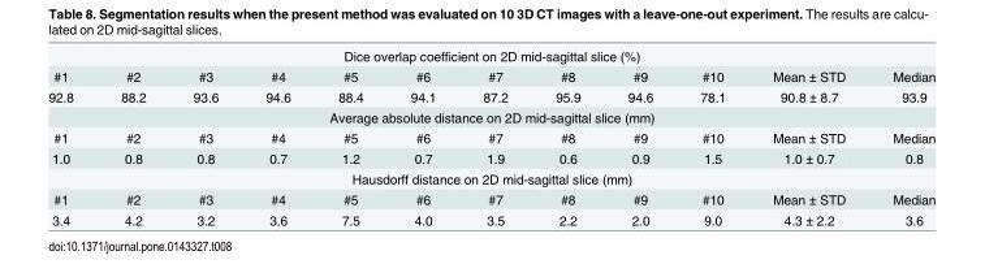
<table><tbody><tr><td colspan="12">Dice overlap coefficient on 2D mid-sagittal slice (%)</td></tr><tr><td>#1</td><td>#2</td><td>#3</td><td>#4</td><td>#5</td><td>#6</td><td>#7</td><td>#8</td><td>#9</td><td>#10</td><td>Mean ± STD</td><td>Median</td></tr><tr><td>92.8</td><td>88.2</td><td>93.6</td><td>94.6</td><td>88.4</td><td>94.1</td><td>87.2</td><td>95.9</td><td>94.6</td><td>78.1</td><td>90.8 ± 8.7</td><td>93.9</td></tr><tr><td colspan="12">Average absolute distance on 2D mid-sagittal slice (mm)</td></tr><tr><td>#1</td><td>#2</td><td>#3</td><td>#4</td><td>#5</td><td>#6</td><td>#7</td><td>#8</td><td>#9</td><td>#10</td><td>Mean ± STD</td><td>Median</td></tr><tr><td>1.0</td><td>0.8</td><td>0.8</td><td>0.7</td><td>1.2</td><td>0.7</td><td>1.9</td><td>0.6</td><td>0.9</td><td>1.5</td><td>1.0 ± 0.7</td><td>0.8</td></tr><tr><td colspan="12">Hausdorff distance on 2D mid-sagittal slice (mm)</td></tr><tr><td>#1</td><td>#2</td><td>#3</td><td>#4</td><td>#5</td><td>#6</td><td>#7</td><td>#8</td><td>#9</td><td>#10</td><td>Mean ± STD</td><td>Median</td></tr><tr><td>3.4</td><td>4.2</td><td>3.2</td><td>3.6</td><td>7.5</td><td>4.0</td><td>3.5</td><td>2.2</td><td>2.0</td><td>9.0</td><td>4.3 ± 2.2</td><td>3.6</td></tr></tbody></table>